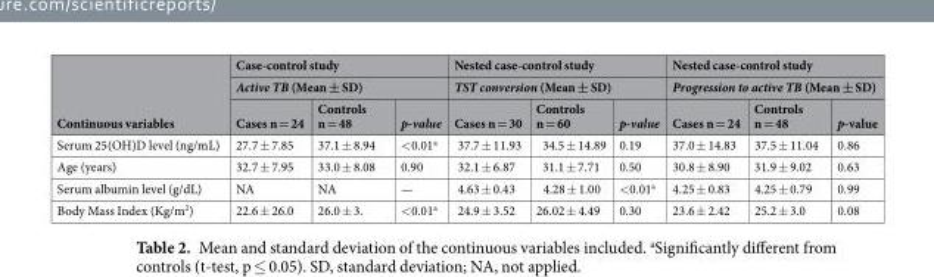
<table><thead><tr><td rowspan="3">Continuous variables</td><td rowspan="2" colspan="3">Case-control study Active TB (Mean ± SD)</td><td rowspan="2" colspan="3">Nested case-control study TST conversion (Mean ± SD)</td><td rowspan="2" colspan="3">Nested case-control study Progression to active TB (Mean ± SD)</td></tr><tr></tr><tr><td>Cases n = 24</td><td>Controls n = 48</td><td>p-value</td><td>Cases n = 30</td><td>Controls n = 60</td><td>p-value</td><td>Cases n = 24</td><td>Controls n = 48</td><td>p-value</td></tr></thead><tbody><tr><td>Serum 25(OH)D level (ng/mL)</td><td>27.7 ± 7.85</td><td>37.1 ± 8.94</td><td>&lt;0.01<sup>a</sup></td><td>37.7 ± 11.93</td><td>34.5 ± 14.89</td><td>0.19</td><td>37.0 ± 14.83</td><td>37.5 ± 11.04</td><td>0.86</td></tr><tr><td>Age (years)</td><td>32.7 ± 7.95</td><td>33.0 ± 8.08</td><td>0.90</td><td>32.1 ± 6.87</td><td>31.1 ± 7.71</td><td>0.50</td><td>30.8 ± 8.90</td><td>31.9 ± 9.02</td><td>0.63</td></tr><tr><td>Serum albumin level (g/dL)</td><td>NA</td><td>NA</td><td>—</td><td>4.63 ± 0.43</td><td>4.28 ± 1.00</td><td>&lt;0.01<sup>a</sup></td><td>4.25 ± 0.83</td><td>4.25 ± 0.79</td><td>0.99</td></tr><tr><td>Body Mass Index (Kg/m<sup>2</sup>)</td><td>22.6 ± 26.0</td><td>26.0 ± 3.</td><td>&lt;0.01<sup>a</sup></td><td>24.9 ± 3.52</td><td>26.02 ± 4.49</td><td>0.30</td><td>23.6 ± 2.42</td><td>25.2 ± 3.0</td><td>0.08</td></tr></tbody></table>